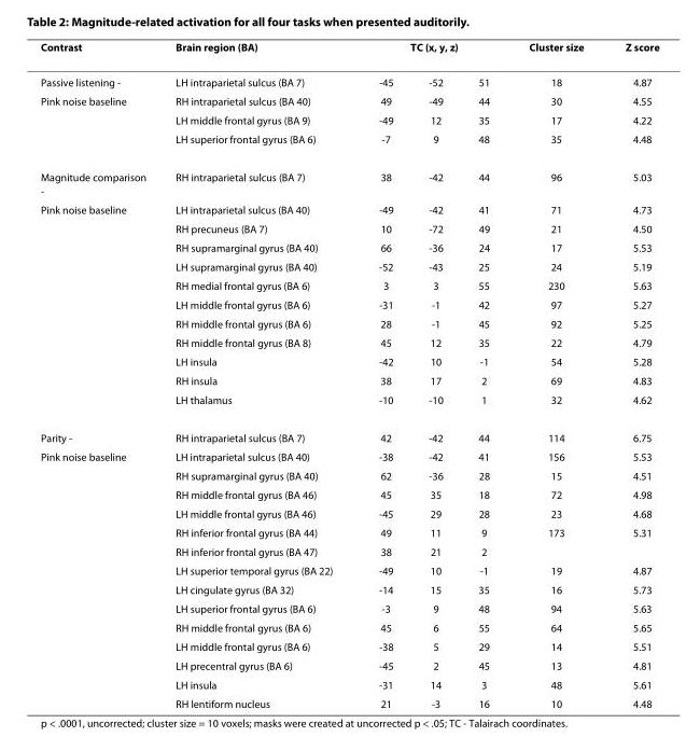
<table><thead><tr><td rowspan="2">Contrast Passive listening -</td><td rowspan="2">Brain region (BA) LH intraparietal sulcus (BA 7)</td><td colspan="3">TC (x, y, z)</td><td rowspan="2">Cluster size 18</td><td rowspan="2">Z score 4.87</td></tr><tr><td>-45</td><td>-52</td><td>51</td></tr></thead><tbody><tr><td rowspan="3">Pink noise baseline</td><td>RH intraparietal sulcus (BA 40)</td><td>49</td><td>-49</td><td>44</td><td>30</td><td>4.55</td></tr><tr><td>LH middle frontal gyrus (BA 9)</td><td>-49</td><td>12</td><td>35</td><td>17</td><td>4.22</td></tr><tr><td>LH superior frontal gyrus (BA 6)</td><td>-7</td><td>9</td><td>48</td><td>35</td><td>4.48</td></tr><tr><td>Magnitude comparison -</td><td>RH intraparietal sulcus (BA 7)</td><td>38</td><td>-42</td><td>44</td><td>96</td><td>5.03</td></tr><tr><td rowspan="11">Pink noise baseline</td><td>LH intraparietal sulcus (BA 40)</td><td>-49</td><td>-42</td><td>41</td><td>71</td><td>4.73</td></tr><tr><td>RH precuneus (BA 7)</td><td>10</td><td>-72</td><td>49</td><td>21</td><td>4.50</td></tr><tr><td>RH supramarginal gyrus (BA 40)</td><td>66</td><td>-36</td><td>24</td><td>17</td><td>5.53</td></tr><tr><td>LH supramarginal gyrus (BA 40)</td><td>-52</td><td>-43</td><td>25</td><td>24</td><td>5.19</td></tr><tr><td>RH medial frontal gyrus (BA 6)</td><td>3</td><td>3</td><td>55</td><td>230</td><td>5.63</td></tr><tr><td>LH middle frontal gyrus (BA 6)</td><td>-31</td><td>-1</td><td>42</td><td>97</td><td>5.27</td></tr><tr><td>RH middle frontal gyrus (BA 6)</td><td>28</td><td>-1</td><td>45</td><td>92</td><td>5.25</td></tr><tr><td>RH middle frontal gyrus (BA 8)</td><td>45</td><td>12</td><td>35</td><td>22</td><td>4.79</td></tr><tr><td>LH insula</td><td>-42</td><td>10</td><td>-1</td><td>54</td><td>5.28</td></tr><tr><td>RH insula</td><td>38</td><td>17</td><td>2</td><td>69</td><td>4.83</td></tr><tr><td>LH thalamus</td><td>-10</td><td>-10</td><td>1</td><td>32</td><td>4.62</td></tr><tr><td>Parity -</td><td>RH intraparietal sulcus (BA 7)</td><td>42</td><td>-42</td><td>44</td><td>114</td><td>6.75</td></tr><tr><td rowspan="14">Pink noise baseline</td><td>LH intraparietal sulcus (BA 40)</td><td>-38</td><td>-42</td><td>41</td><td>156</td><td>5.53</td></tr><tr><td>RH supramarginal gyrus (BA 40)</td><td>62</td><td>-36</td><td>28</td><td>15</td><td>4.51</td></tr><tr><td>RH middle frontal gyrus (BA 46)</td><td>45</td><td>35</td><td>18</td><td>72</td><td>4.98</td></tr><tr><td>LH middle frontal gyrus (BA 46)</td><td>-45</td><td>29</td><td>28</td><td>23</td><td>4.68</td></tr><tr><td>RH inferior frontal gyrus (BA 44)</td><td>49</td><td>11</td><td>9</td><td>173</td><td>5.31</td></tr><tr><td>RH inferior frontal gyrus (BA 47)</td><td>38</td><td>21</td><td>2</td><td></td><td></td></tr><tr><td>LH superior temporal gyrus (BA 22)</td><td>-49</td><td>10</td><td>-1</td><td>19</td><td>4.87</td></tr><tr><td>LH cingulate gyrus (BA 32)</td><td>-14</td><td>15</td><td>35</td><td>16</td><td>5.73</td></tr><tr><td>LH superior frontal gyrus (BA 6)</td><td>-3</td><td>9</td><td>48</td><td>94</td><td>5.63</td></tr><tr><td>RH middle frontal gyrus (BA 6)</td><td>45</td><td>6</td><td>55</td><td>64</td><td>5.65</td></tr><tr><td>LH middle frontal gyrus (BA 6)</td><td>-38</td><td>5</td><td>29</td><td>14</td><td>5.51</td></tr><tr><td>LH precentral gyrus (BA 6)</td><td>-45</td><td>2</td><td>45</td><td>13</td><td>4.81</td></tr><tr><td>LH insula</td><td>-31</td><td>14</td><td>3</td><td>48</td><td>5.61</td></tr><tr><td>RH lentiform nucleus</td><td>21</td><td>-3</td><td>16</td><td>10</td><td>4.48</td></tr></tbody></table>